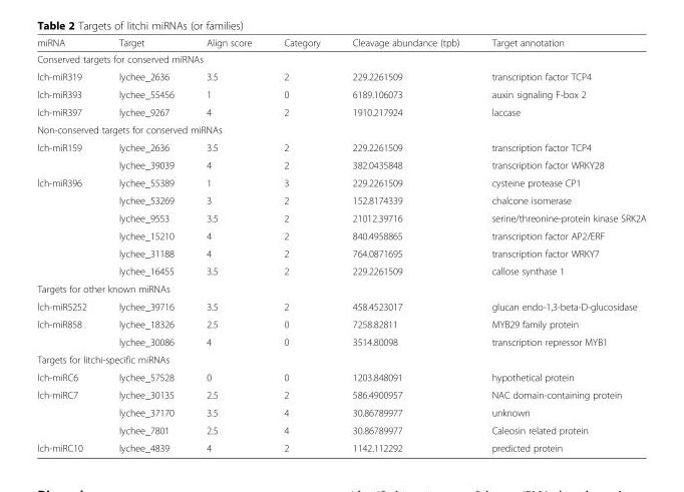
<table><thead><tr><td>miRNA</td><td>Target</td><td>Align score</td><td>Category</td><td>Cleavage abundance (tpb)</td><td>Target annotation</td></tr></thead><tbody><tr><td colspan="6">Conserved targets for conserved miRNAs</td></tr><tr><td>lch-miR319</td><td>lychee_2636</td><td>3.5</td><td>2</td><td>229.2261509</td><td>transcription factor TCP4</td></tr><tr><td>lch-miR393</td><td>lychee_55456</td><td>1</td><td>0</td><td>6189.106073</td><td>auxin signaling F-box 2</td></tr><tr><td>lch-miR397</td><td>lychee_9267</td><td>4</td><td>2</td><td>1910.217924</td><td>laccase</td></tr><tr><td colspan="6">Non-conserved targets for conserved miRNAs</td></tr><tr><td rowspan="2">lch-miR159</td><td>lychee_2636</td><td>3.5</td><td>2</td><td>229.2261509</td><td>transcription factor TCP4</td></tr><tr><td>lychee_39039</td><td>4</td><td>2</td><td>382.0435848</td><td>transcription factor WRKY28</td></tr><tr><td rowspan="6">lch-miR396</td><td>lychee_55389</td><td>1</td><td>3</td><td>229.2261509</td><td>cysteine protease CP1</td></tr><tr><td>lychee_53269</td><td>3</td><td>2</td><td>152.8174339</td><td>chalcone isomerase</td></tr><tr><td>lychee_9553</td><td>3.5</td><td>2</td><td>21012.39716</td><td>serine/threonine-protein kinase SRK2A</td></tr><tr><td>lychee_15210</td><td>4</td><td>2</td><td>840.4958865</td><td>transcription factor AP2/ERF</td></tr><tr><td>lychee_31188</td><td>4</td><td>2</td><td>764.0871695</td><td>transcription factor WRKY7</td></tr><tr><td>lychee_16455</td><td>3.5</td><td>2</td><td>229.2261509</td><td>callose synthase 1</td></tr><tr><td colspan="6">Targets for other known miRNAs</td></tr><tr><td>lch-miR5252</td><td>lychee_39716</td><td>3.5</td><td>2</td><td>458.4523017</td><td>glucan endo-1,3-beta-D-glucosidase</td></tr><tr><td rowspan="2">lch-miR858</td><td>lychee_18326</td><td>2.5</td><td>0</td><td>7258.82811</td><td>MYB29 family protein</td></tr><tr><td>lychee_30086</td><td>4</td><td>0</td><td>3514.80098</td><td>transcription repressor MYB1</td></tr><tr><td colspan="6">Targets for litchi-specific miRNAs</td></tr><tr><td>lch-miRC6</td><td>lychee_57528</td><td>0</td><td>0</td><td>1203.848091</td><td>hypothetical protein</td></tr><tr><td rowspan="3">lch-miRC7</td><td>lychee_30135</td><td>2.5</td><td>2</td><td>586.4900957</td><td>NAC domain-containing protein</td></tr><tr><td>lychee_37170</td><td>3.5</td><td>4</td><td>30.86789977</td><td>unknown</td></tr><tr><td>lychee_7801</td><td>2.5</td><td>4</td><td>30.86789977</td><td>Caleosin related protein</td></tr><tr><td>lch-miRC10</td><td>lychee_4839</td><td>4</td><td>2</td><td>1142.112292</td><td>predicted protein</td></tr></tbody></table>